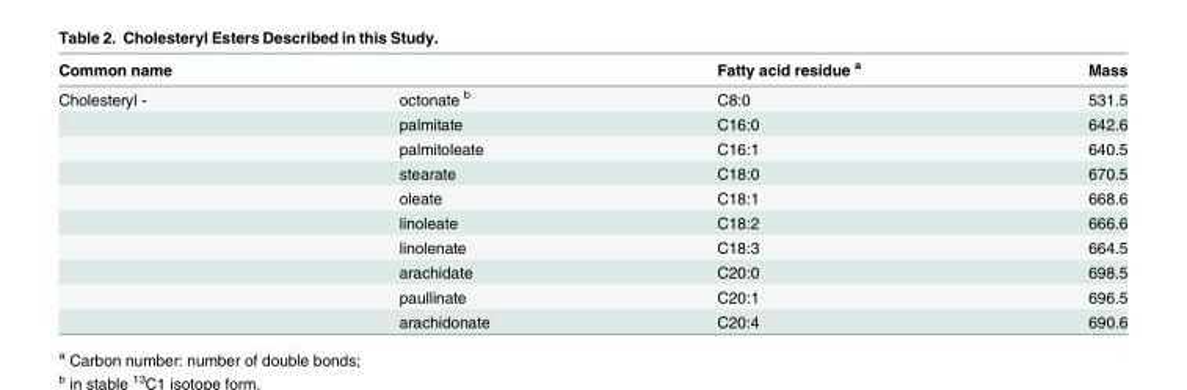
<table><thead><tr><td>Common name</td><td></td><td>Fatty acid residue <sup>a</sup></td><td>Mass</td></tr></thead><tbody><tr><td rowspan="10">Cholesteryl -</td><td>octonate <sup>b</sup></td><td>C8:0</td><td>531.5</td></tr><tr><td>palmitate</td><td>C16:0</td><td>642.6</td></tr><tr><td>palmitoleate</td><td>C16:1</td><td>640.5</td></tr><tr><td>stearate</td><td>C18:0</td><td>670.5</td></tr><tr><td>oleate</td><td>C18:1</td><td>668.6</td></tr><tr><td>linoleate</td><td>C18:2</td><td>666.6</td></tr><tr><td>linolenate</td><td>C18:3</td><td>664.5</td></tr><tr><td>arachidate</td><td>C20:0</td><td>698.5</td></tr><tr><td>paullinate</td><td>C20:1</td><td>696.5</td></tr><tr><td>arachidonate</td><td>C20:4</td><td>690.6</td></tr></tbody></table>